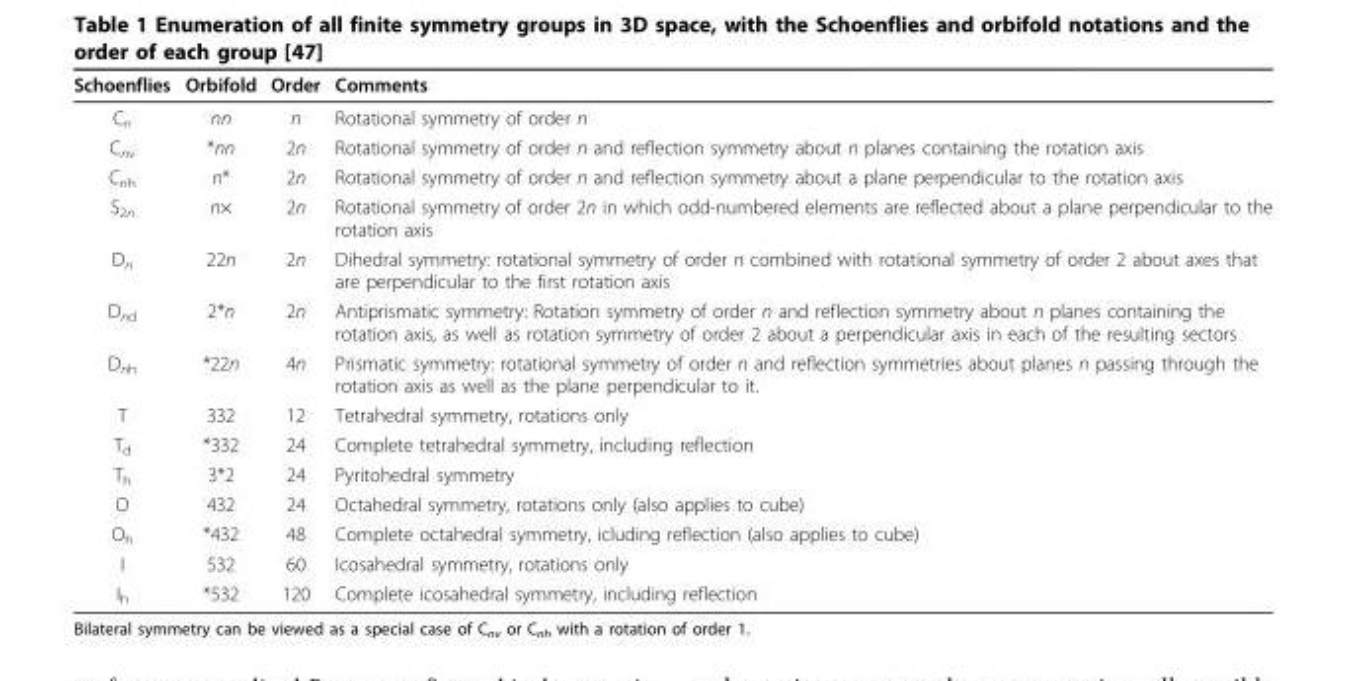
<table><thead><tr><td>Schoenflies</td><td>Orbifold</td><td>Order</td><td>Comments</td></tr></thead><tbody><tr><td>C<sub>n</sub></td><td>nn</td><td>n</td><td>Rotational symmetry of order n</td></tr><tr><td>C<sub>nv</sub></td><td>*nn</td><td>2n</td><td>Rotational symmetry of order n and reflection symmetry about n planes containing the rotation axis</td></tr><tr><td>C<sub>nh</sub></td><td>n*</td><td>2n</td><td>Rotational symmetry of order n and reflection symmetry about a plane perpendicular to the rotation axis</td></tr><tr><td>S<sub>2n</sub></td><td>n×</td><td>2n</td><td>Rotational symmetry of order 2n in which odd-numbered elements are reflected about a plane perpendicular to the rotation axis</td></tr><tr><td>D<sub>n</sub></td><td>22n</td><td>2n</td><td>Dihedral symmetry: rotational symmetry of order n combined with rotational symmetry of order 2 about axes that are perpendicular to the first rotation axis</td></tr><tr><td>D<sub>nd</sub></td><td>2*n</td><td>2n</td><td>Antiprismatic symmetry: Rotation symmetry of order n and reflection symmetry about n planes containing the rotation axis, as well as rotation symmetry of order 2 about a perpendicular axis in each of the resulting sectors</td></tr><tr><td>D<sub>nh</sub></td><td>*22n</td><td>4n</td><td>Prismatic symmetry: rotational symmetry of order n and reflection symmetries about planes n passing through the rotation axis as well as the plane perpendicular to it.</td></tr><tr><td>T</td><td>332</td><td>12</td><td>Tetrahedral symmetry, rotations only</td></tr><tr><td>T<sub>d</sub></td><td>*332</td><td>24</td><td>Complete tetrahedral symmetry, including reflection</td></tr><tr><td>T<sub>h</sub></td><td>3*2</td><td>24</td><td>Pyritohedral symmetry</td></tr><tr><td>O</td><td>432</td><td>24</td><td>Octahedral symmetry, rotations only (also applies to cube)</td></tr><tr><td>O<sub>h</sub></td><td>*432</td><td>48</td><td>Complete octahedral symmetry, icluding reflection (also applies to cube)</td></tr><tr><td>I</td><td>532</td><td>60</td><td>Icosahedral symmetry, rotations only</td></tr><tr><td>I<sub>h</sub></td><td>*532</td><td>120</td><td>Complete icosahedral symmetry, including reflection</td></tr></tbody></table>